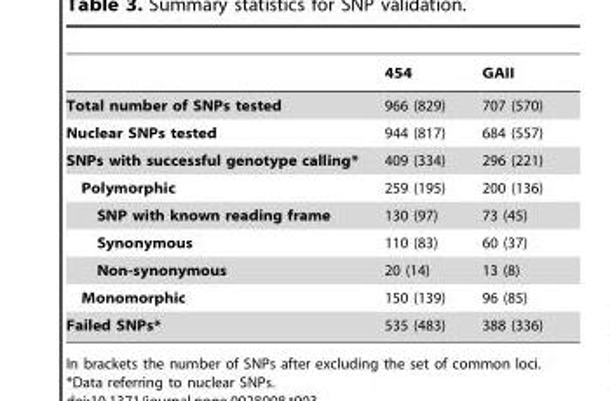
<table><thead><tr><td></td><td>454</td><td>GAII</td></tr></thead><tbody><tr><td>Total number of SNPs tested</td><td>966 (829)</td><td>707 (570)</td></tr><tr><td>Nuclear SNPs tested</td><td>944 (817)</td><td>684 (557)</td></tr><tr><td>SNPs with successful genotype calling*</td><td>409 (334)</td><td>296 (221)</td></tr><tr><td>Polymorphic</td><td>259 (195)</td><td>200 (136)</td></tr><tr><td>SNP with known reading frame</td><td>130 (97)</td><td>73 (45)</td></tr><tr><td>Synonymous</td><td>110 (83)</td><td>60 (37)</td></tr><tr><td>Non-synonymous</td><td>20 (14)</td><td>13 (8)</td></tr><tr><td>Monomorphic</td><td>150 (139)</td><td>96 (85)</td></tr><tr><td>Failed SNPs*</td><td>535 (483)</td><td>388 (336)</td></tr></tbody></table>